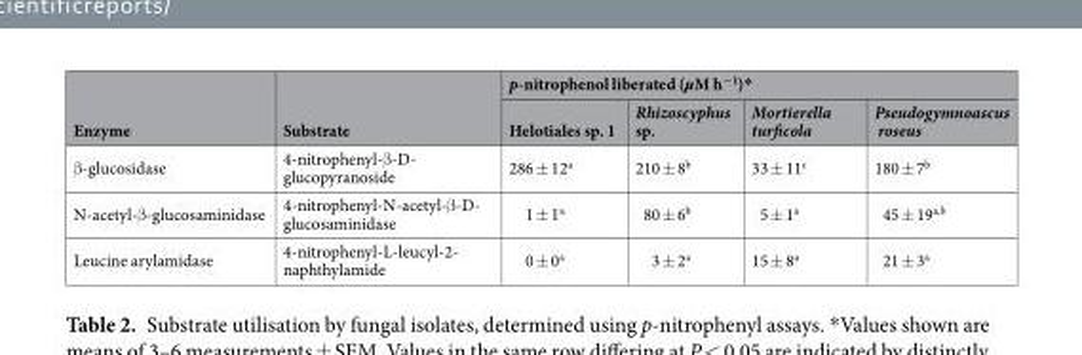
<table><thead><tr><td rowspan="2">Enzyme</td><td rowspan="2">Substrate</td><td colspan="4">p-nitrophenol liberated (µM h<sup>−1</sup>)*</td></tr><tr><td>Helotiales sp. 1</td><td>Rhizoscyphus sp.</td><td>Mortierella turficola</td><td>Pseudogymnoascus roseus</td></tr></thead><tbody><tr><td>β-glucosidase</td><td>4-nitrophenyl-β-D- glucopyranoside</td><td>286 ± 12<sup>a</sup></td><td>210 ± 8<sup>b</sup></td><td>33 ± 11<sup>c</sup></td><td>180 ± 7<sup>b</sup></td></tr><tr><td>N-acetyl-β-glucosaminidase</td><td>4-nitrophenyl-N-acetyl-β-D- glucosaminidase</td><td>1 ± 1<sup>a</sup></td><td>80 ± 6<sup>b</sup></td><td>5 ± 1<sup>a</sup></td><td>45 ± 19<sup>a,b</sup></td></tr><tr><td>Leucine arylamidase</td><td>4-nitrophenyl-L-leucyl-2- naphthylamide</td><td>0 ± 0<sup>a</sup></td><td>3 ± 2<sup>a</sup></td><td>15 ± 8<sup>a</sup></td><td>21 ± 3<sup>a</sup></td></tr></tbody></table>